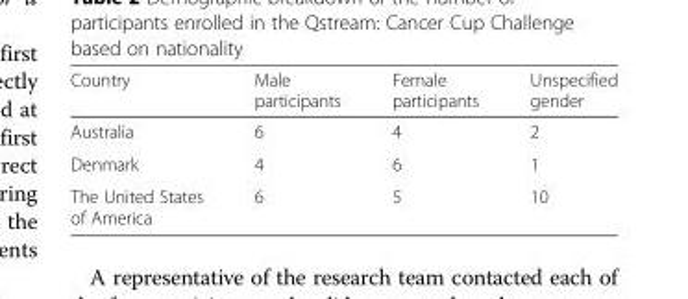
<table><thead><tr><td>Country</td><td>Male participants</td><td>Female participants</td><td>Unspecified gender</td></tr></thead><tbody><tr><td>Australia</td><td>6</td><td>4</td><td>2</td></tr><tr><td>Denmark</td><td>4</td><td>6</td><td>1</td></tr><tr><td>The United States of America</td><td>6</td><td>5</td><td>10</td></tr></tbody></table>